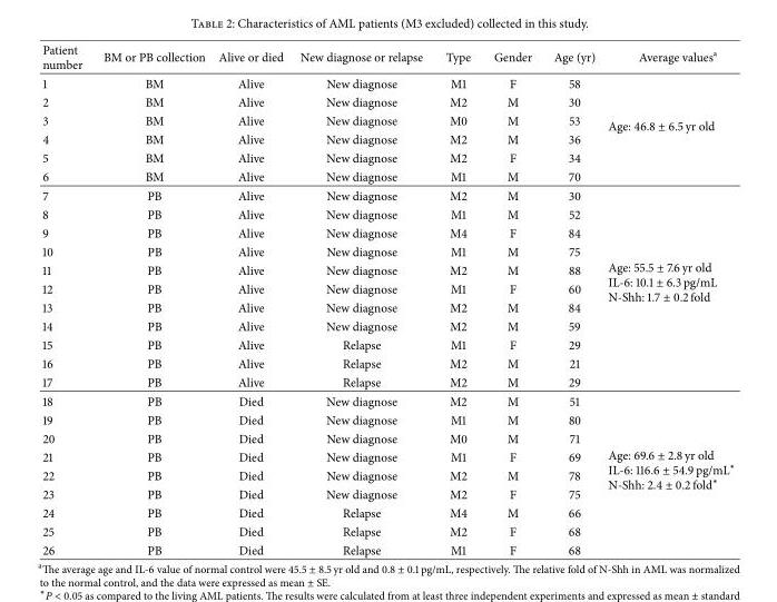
<table><thead><tr><td>Patient number</td><td>BM or PB collection</td><td>Alive or died</td><td>New diagnose or relapse</td><td>Type</td><td>Gender</td><td>Age (yr)</td><td>Average valuesa</td></tr></thead><tbody><tr><td>1</td><td>BM</td><td>Alive</td><td>New diagnose</td><td>M1</td><td>F</td><td>58</td><td rowspan="6">Age: 46.8 ± 6.5 yr old</td></tr><tr><td>2</td><td>BM</td><td>Alive</td><td>New diagnose</td><td>M2</td><td>M</td><td>30</td></tr><tr><td>3</td><td>BM</td><td>Alive</td><td>New diagnose</td><td>M0</td><td>M</td><td>53</td></tr><tr><td>4</td><td>BM</td><td>Alive</td><td>New diagnose</td><td>M2</td><td>M</td><td>36</td></tr><tr><td>5</td><td>BM</td><td>Alive</td><td>New diagnose</td><td>M2</td><td>F</td><td>34</td></tr><tr><td>6</td><td>BM</td><td>Alive</td><td>New diagnose</td><td>M1</td><td>M</td><td>70</td></tr><tr><td>7</td><td>PB</td><td>Alive</td><td>New diagnose</td><td>M2</td><td>M</td><td>30</td><td rowspan="11">Age: 55.5 ± 7.6 yr old IL-6: 10.1 ± 6.3 pg/mL N-Shh: 1.7 ± 0.2 fold</td></tr><tr><td>8</td><td>PB</td><td>Alive</td><td>New diagnose</td><td>M1</td><td>M</td><td>52</td></tr><tr><td>9</td><td>PB</td><td>Alive</td><td>New diagnose</td><td>M4</td><td>F</td><td>84</td></tr><tr><td>10</td><td>PB</td><td>Alive</td><td>New diagnose</td><td>M1</td><td>M</td><td>75</td></tr><tr><td>11</td><td>PB</td><td>Alive</td><td>New diagnose</td><td>M2</td><td>M</td><td>88</td></tr><tr><td>12</td><td>PB</td><td>Alive</td><td>New diagnose</td><td>M1</td><td>F</td><td>60</td></tr><tr><td>13</td><td>PB</td><td>Alive</td><td>New diagnose</td><td>M2</td><td>M</td><td>84</td></tr><tr><td>14</td><td>PB</td><td>Alive</td><td>New diagnose</td><td>M2</td><td>M</td><td>59</td></tr><tr><td>15</td><td>PB</td><td>Alive</td><td>Relapse</td><td>M1</td><td>F</td><td>29</td></tr><tr><td>16</td><td>PB</td><td>Alive</td><td>Relapse</td><td>M2</td><td>M</td><td>21</td></tr><tr><td>17</td><td>PB</td><td>Alive</td><td>Relapse</td><td>M2</td><td>M</td><td>29</td></tr><tr><td>18</td><td>PB</td><td>Died</td><td>New diagnose</td><td>M2</td><td>M</td><td>51</td><td rowspan="9">Age: 69.6 ± 2.8 yr old IL-6: 116.6 ± 54.9 pg/mL∗ N-Shh: 2.4 ± 0.2 fold∗</td></tr><tr><td>19</td><td>PB</td><td>Died</td><td>New diagnose</td><td>M1</td><td>M</td><td>80</td></tr><tr><td>20</td><td>PB</td><td>Died</td><td>New diagnose</td><td>M0</td><td>M</td><td>71</td></tr><tr><td>21</td><td>PB</td><td>Died</td><td>New diagnose</td><td>M1</td><td>F</td><td>69</td></tr><tr><td>22</td><td>PB</td><td>Died</td><td>New diagnose</td><td>M2</td><td>M</td><td>78</td></tr><tr><td>23</td><td>PB</td><td>Died</td><td>New diagnose</td><td>M2</td><td>F</td><td>75</td></tr><tr><td>24</td><td>PB</td><td>Died</td><td>Relapse</td><td>M4</td><td>M</td><td>66</td></tr><tr><td>25</td><td>PB</td><td>Died</td><td>Relapse</td><td>M2</td><td>F</td><td>68</td></tr><tr><td>26</td><td>PB</td><td>Died</td><td>Relapse</td><td>M1</td><td>F</td><td>68</td></tr></tbody></table>